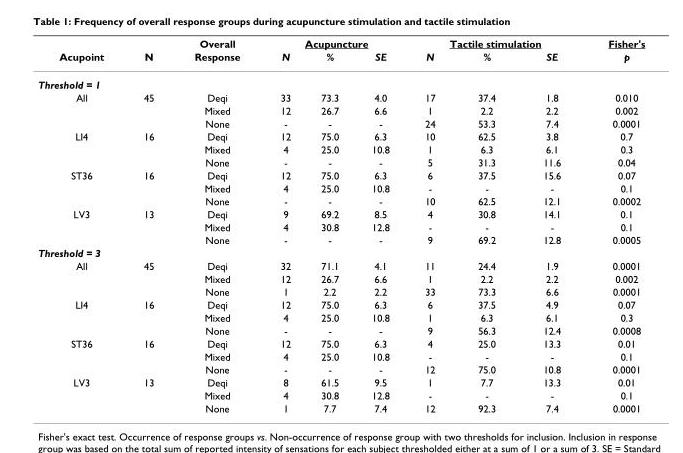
<table><thead><tr><td rowspan="2">Acupoint</td><td rowspan="2">N</td><td rowspan="2">Overall Response</td><td colspan="3">Acupuncture</td><td colspan="3">Tactile stimulation</td><td rowspan="2">Fisher&#x27;s p</td></tr><tr><td>N</td><td>%</td><td>SE</td><td>N</td><td>%</td><td>SE</td></tr></thead><tbody><tr><td colspan="10">Threshold = 1</td></tr><tr><td rowspan="3">All</td><td>45</td><td>Deqi</td><td>33</td><td>73.3</td><td>4.0</td><td>17</td><td>37.4</td><td>1.8</td><td>0.010</td></tr><tr><td></td><td>Mixed</td><td>12</td><td>26.7</td><td>6.6</td><td>1</td><td>2.2</td><td>2.2</td><td>0.002</td></tr><tr><td></td><td>None</td><td>-</td><td>-</td><td>-</td><td>24</td><td>53.3</td><td>7.4</td><td>0.0001</td></tr><tr><td rowspan="3">LI4</td><td>16</td><td>Deqi</td><td>12</td><td>75.0</td><td>6.3</td><td>10</td><td>62.5</td><td>3.8</td><td>0.7</td></tr><tr><td></td><td>Mixed</td><td>4</td><td>25.0</td><td>10.8</td><td>1</td><td>6.3</td><td>6.1</td><td>0.3</td></tr><tr><td></td><td>None</td><td>-</td><td>-</td><td>-</td><td>5</td><td>31.3</td><td>11.6</td><td>0.04</td></tr><tr><td rowspan="3">ST36</td><td>16</td><td>Deqi</td><td>12</td><td>75.0</td><td>6.3</td><td>6</td><td>37.5</td><td>15.6</td><td>0.07</td></tr><tr><td></td><td>Mixed</td><td>4</td><td>25.0</td><td>10.8</td><td>-</td><td>-</td><td>-</td><td>0.1</td></tr><tr><td></td><td>None</td><td>-</td><td>-</td><td>-</td><td>10</td><td>62.5</td><td>12.1</td><td>0.0002</td></tr><tr><td rowspan="3">LV3</td><td>13</td><td>Deqi</td><td>9</td><td>69.2</td><td>8.5</td><td>4</td><td>30.8</td><td>14.1</td><td>0.1</td></tr><tr><td></td><td>Mixed</td><td>4</td><td>30.8</td><td>12.8</td><td>-</td><td>-</td><td>-</td><td>0.1</td></tr><tr><td></td><td>None</td><td>-</td><td>-</td><td>-</td><td>9</td><td>69.2</td><td>12.8</td><td>0.0005</td></tr><tr><td colspan="10">Threshold = 3</td></tr><tr><td rowspan="3">All</td><td>45</td><td>Deqi</td><td>32</td><td>71.1</td><td>4.1</td><td>11</td><td>24.4</td><td>1.9</td><td>0.0001</td></tr><tr><td></td><td>Mixed</td><td>12</td><td>26.7</td><td>6.6</td><td>1</td><td>2.2</td><td>2.2</td><td>0.002</td></tr><tr><td></td><td>None</td><td>1</td><td>2.2</td><td>2.2</td><td>33</td><td>73.3</td><td>6.6</td><td>0.0001</td></tr><tr><td rowspan="3">LI4</td><td>16</td><td>Deqi</td><td>12</td><td>75.0</td><td>6.3</td><td>6</td><td>37.5</td><td>4.9</td><td>0.07</td></tr><tr><td></td><td>Mixed</td><td>4</td><td>25.0</td><td>10.8</td><td>1</td><td>6.3</td><td>6.1</td><td>0.3</td></tr><tr><td></td><td>None</td><td>-</td><td>-</td><td>-</td><td>9</td><td>56.3</td><td>12.4</td><td>0.0008</td></tr><tr><td rowspan="3">ST36</td><td>16</td><td>Deqi</td><td>12</td><td>75.0</td><td>6.3</td><td>4</td><td>25.0</td><td>13.3</td><td>0.01</td></tr><tr><td></td><td>Mixed</td><td>4</td><td>25.0</td><td>10.8</td><td>-</td><td>-</td><td>-</td><td>0.1</td></tr><tr><td></td><td>None</td><td>-</td><td>-</td><td>-</td><td>12</td><td>75.0</td><td>10.8</td><td>0.0001</td></tr><tr><td rowspan="3">LV3</td><td>13</td><td>Deqi</td><td>8</td><td>61.5</td><td>9.5</td><td>1</td><td>7.7</td><td>13.3</td><td>0.01</td></tr><tr><td></td><td>Mixed</td><td>4</td><td>30.8</td><td>12.8</td><td>-</td><td>-</td><td>-</td><td>0.1</td></tr><tr><td></td><td>None</td><td>1</td><td>7.7</td><td>7.4</td><td>12</td><td>92.3</td><td>7.4</td><td>0.0001</td></tr></tbody></table>